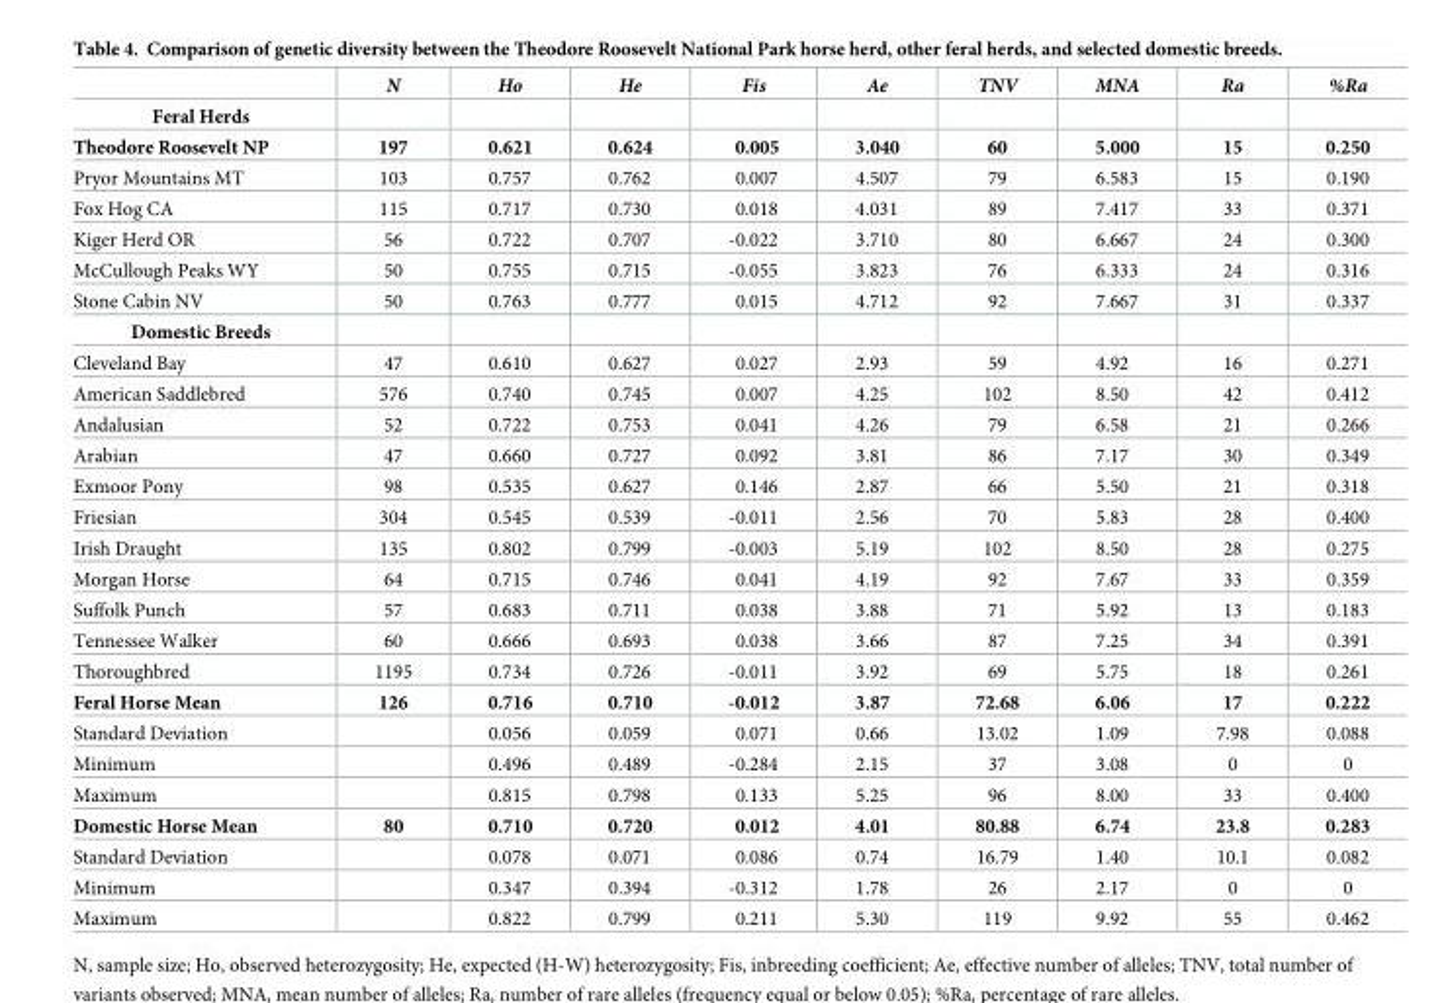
<table><thead><tr><td></td><td>N</td><td>Ho</td><td>He</td><td>Fis</td><td>Ae</td><td>TNV</td><td>MNA</td><td>Ra</td><td>%Ra</td></tr></thead><tbody><tr><td colspan="10">Feral Herds</td></tr><tr><td>Theodore Roosevelt NP</td><td>197</td><td>0.621</td><td>0.624</td><td>0.005</td><td>3.040</td><td>60</td><td>5.000</td><td>15</td><td>0.250</td></tr><tr><td>Pryor Mountains MT</td><td>103</td><td>0.757</td><td>0.762</td><td>0.007</td><td>4.507</td><td>79</td><td>6.583</td><td>15</td><td>0.190</td></tr><tr><td>Fox Hog CA</td><td>115</td><td>0.717</td><td>0.730</td><td>0.018</td><td>4.031</td><td>89</td><td>7.417</td><td>33</td><td>0.371</td></tr><tr><td>Kiger Herd OR</td><td>56</td><td>0.722</td><td>0.707</td><td>-0.022</td><td>3.710</td><td>80</td><td>6.667</td><td>24</td><td>0.300</td></tr><tr><td>McCullough Peaks WY</td><td>50</td><td>0.755</td><td>0.715</td><td>-0.055</td><td>3.823</td><td>76</td><td>6.333</td><td>24</td><td>0.316</td></tr><tr><td>Stone Cabin NV</td><td>50</td><td>0.763</td><td>0.777</td><td>0.015</td><td>4.712</td><td>92</td><td>7.667</td><td>31</td><td>0.337</td></tr><tr><td colspan="10">Domestic Breeds</td></tr><tr><td>Cleveland Bay</td><td>47</td><td>0.610</td><td>0.627</td><td>0.027</td><td>2.93</td><td>59</td><td>4.92</td><td>16</td><td>0.271</td></tr><tr><td>American Saddlebred</td><td>576</td><td>0.740</td><td>0.745</td><td>0.007</td><td>4.25</td><td>102</td><td>8.50</td><td>42</td><td>0.412</td></tr><tr><td>Andalusian</td><td>52</td><td>0.722</td><td>0.753</td><td>0.041</td><td>4.26</td><td>79</td><td>6.58</td><td>21</td><td>0.266</td></tr><tr><td>Arabian</td><td>47</td><td>0.660</td><td>0.727</td><td>0.092</td><td>3.81</td><td>86</td><td>7.17</td><td>30</td><td>0.349</td></tr><tr><td>Exmoor Pony</td><td>98</td><td>0.535</td><td>0.627</td><td>0.146</td><td>2.87</td><td>66</td><td>5.50</td><td>21</td><td>0.318</td></tr><tr><td>Friesian</td><td>304</td><td>0.545</td><td>0.539</td><td>-0.011</td><td>2.56</td><td>70</td><td>5.83</td><td>28</td><td>0.400</td></tr><tr><td>Irish Draught</td><td>135</td><td>0.802</td><td>0.799</td><td>-0.003</td><td>5.19</td><td>102</td><td>8.50</td><td>28</td><td>0.275</td></tr><tr><td>Morgan Horse</td><td>64</td><td>0.715</td><td>0.746</td><td>0.041</td><td>4.19</td><td>92</td><td>7.67</td><td>33</td><td>0.359</td></tr><tr><td>Suffolk Punch</td><td>57</td><td>0.683</td><td>0.711</td><td>0.038</td><td>3.88</td><td>71</td><td>5.92</td><td>13</td><td>0.183</td></tr><tr><td>Tennessee Walker</td><td>60</td><td>0.666</td><td>0.693</td><td>0.038</td><td>3.66</td><td>87</td><td>7.25</td><td>34</td><td>0.391</td></tr><tr><td>Thoroughbred</td><td>1195</td><td>0.734</td><td>0.726</td><td>-0.011</td><td>3.92</td><td>69</td><td>5.75</td><td>18</td><td>0.261</td></tr><tr><td>Feral Horse Mean</td><td>126</td><td>0.716</td><td>0.710</td><td>-0.012</td><td>3.87</td><td>72.68</td><td>6.06</td><td>17</td><td>0.222</td></tr><tr><td>Standard Deviation</td><td></td><td>0.056</td><td>0.059</td><td>0.071</td><td>0.66</td><td>13.02</td><td>1.09</td><td>7.98</td><td>0.088</td></tr><tr><td>Minimum</td><td></td><td>0.496</td><td>0.489</td><td>-0.284</td><td>2.15</td><td>37</td><td>3.08</td><td>0</td><td>0</td></tr><tr><td>Maximum</td><td></td><td>0.815</td><td>0.798</td><td>0.133</td><td>5.25</td><td>96</td><td>8.00</td><td>33</td><td>0.400</td></tr><tr><td>Domestic Horse Mean</td><td>80</td><td>0.710</td><td>0.720</td><td>0.012</td><td>4.01</td><td>80.88</td><td>6.74</td><td>23.8</td><td>0.283</td></tr><tr><td>Standard Deviation</td><td></td><td>0.078</td><td>0.071</td><td>0.086</td><td>0.74</td><td>16.79</td><td>1.40</td><td>10.1</td><td>0.082</td></tr><tr><td>Minimum</td><td></td><td>0.347</td><td>0.394</td><td>-0.312</td><td>1.78</td><td>26</td><td>2.17</td><td>0</td><td>0</td></tr><tr><td>Maximum</td><td></td><td>0.822</td><td>0.799</td><td>0.211</td><td>5.30</td><td>119</td><td>9.92</td><td>55</td><td>0.462</td></tr></tbody></table>